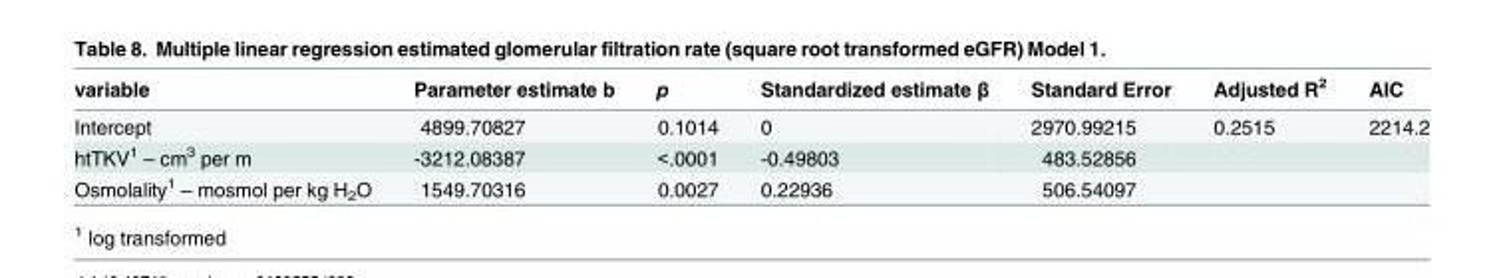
<table><thead><tr><td>variable</td><td>Parameter estimate b</td><td>p</td><td>Standardized estimate β</td><td>Standard Error</td><td>Adjusted R<sup>2</sup></td><td>AIC</td></tr></thead><tbody><tr><td>Intercept</td><td>4899.70827</td><td>0.1014</td><td>0</td><td>2970.99215</td><td>0.2515</td><td>2214.2</td></tr><tr><td>htTKV<sup>1</sup> – cm<sup>3</sup> per m</td><td>-3212.08387</td><td>&lt;.0001</td><td>-0.49803</td><td>483.52856</td><td></td><td></td></tr><tr><td>Osmolality<sup>1</sup> – mosmol per kg H<sub>2</sub>O</td><td>1549.70316</td><td>0.0027</td><td>0.22936</td><td>506.54097</td><td></td><td></td></tr></tbody></table>